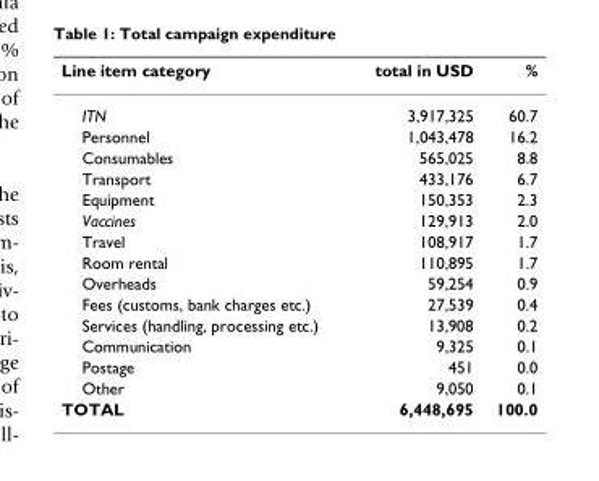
<table><thead><tr><td>Line item category</td><td>total in USD</td><td>%</td></tr></thead><tbody><tr><td>ITN</td><td>3,917,325</td><td>60.7</td></tr><tr><td>Personnel</td><td>1,043,478</td><td>16.2</td></tr><tr><td>Consumables</td><td>565,025</td><td>8.8</td></tr><tr><td>Transport</td><td>433,176</td><td>6.7</td></tr><tr><td>Equipment</td><td>150,353</td><td>2.3</td></tr><tr><td>Vaccines</td><td>129,913</td><td>2.0</td></tr><tr><td>Travel</td><td>108,917</td><td>1.7</td></tr><tr><td>Room rental</td><td>110,895</td><td>1.7</td></tr><tr><td>Overheads</td><td>59,254</td><td>0.9</td></tr><tr><td>Fees (customs, bank charges etc.)</td><td>27,539</td><td>0.4</td></tr><tr><td>Services (handling, processing etc.)</td><td>13,908</td><td>0.2</td></tr><tr><td>Communication</td><td>9,325</td><td>0.1</td></tr><tr><td>Postage</td><td>451</td><td>0.0</td></tr><tr><td>Other</td><td>9,050</td><td>0.1</td></tr><tr><td>TOTAL</td><td>6,448,695</td><td>100.0</td></tr></tbody></table>